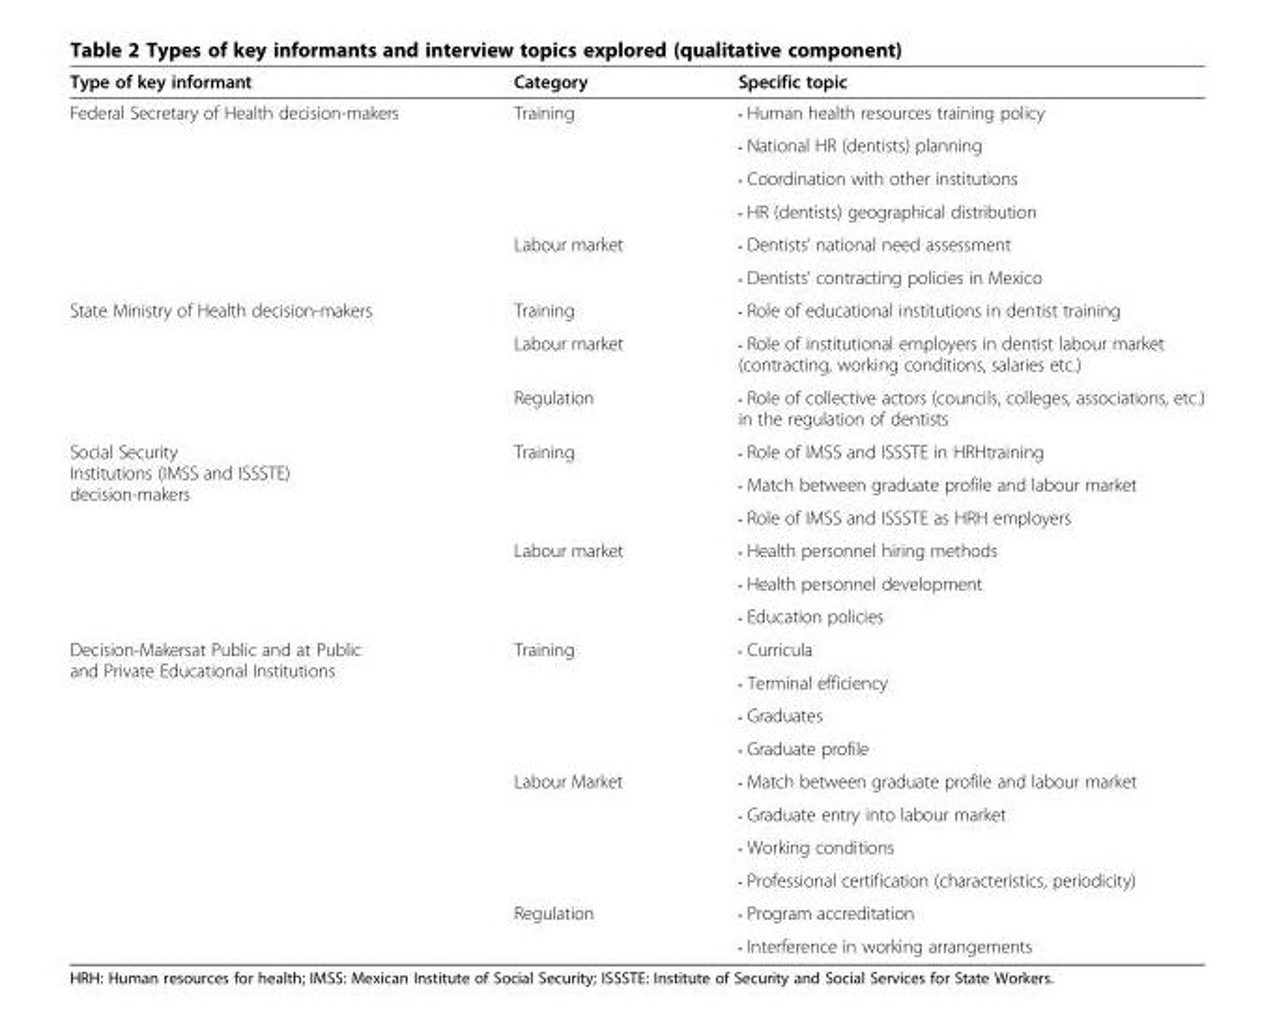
<table><thead><tr><td>Type of key informant</td><td>Category</td><td>Specific topic</td></tr></thead><tbody><tr><td rowspan="6">Federal Secretary of Health decision-makers</td><td>Training</td><td>• Human health resources training policy</td></tr><tr><td></td><td>• National HR (dentists) planning</td></tr><tr><td></td><td>• Coordination with other institutions</td></tr><tr><td></td><td>• HR (dentists) geographical distribution</td></tr><tr><td>Labour market</td><td>• Dentists’ national need assessment</td></tr><tr><td></td><td>• Dentists’ contracting policies in Mexico</td></tr><tr><td rowspan="3">State Ministry of Health decision-makers</td><td>Training</td><td>• Role of educational institutions in dentist training</td></tr><tr><td>Labour market</td><td>• Role of institutional employers in dentist labour market (contracting, working conditions, salaries etc.)</td></tr><tr><td>Regulation</td><td>• Role of collective actors (councils, colleges, associations, etc.) in the regulation of dentists</td></tr><tr><td rowspan="6">Social Security Institutions (IMSS and ISSSTE) decision-makers</td><td>Training</td><td>• Role of IMSS and ISSSTE in HRHtraining</td></tr><tr><td></td><td>• Match between graduate profile and labour market</td></tr><tr><td></td><td>• Role of IMSS and ISSSTE as HRH employers</td></tr><tr><td>Labour market</td><td>• Health personnel hiring methods</td></tr><tr><td></td><td>• Health personnel development</td></tr><tr><td></td><td>• Education policies</td></tr><tr><td rowspan="10">Decision-Makersat Public and at Public and Private Educational Institutions</td><td>Training</td><td>• Curricula</td></tr><tr><td></td><td>• Terminal efficiency</td></tr><tr><td></td><td>• Graduates</td></tr><tr><td></td><td>• Graduate profile</td></tr><tr><td>Labour Market</td><td>• Match between graduate profile and labour market</td></tr><tr><td></td><td>• Graduate entry into labour market</td></tr><tr><td></td><td>• Working conditions</td></tr><tr><td></td><td>• Professional certification (characteristics, periodicity)</td></tr><tr><td>Regulation</td><td>• Program accreditation</td></tr><tr><td></td><td>• Interference in working arrangements</td></tr></tbody></table>